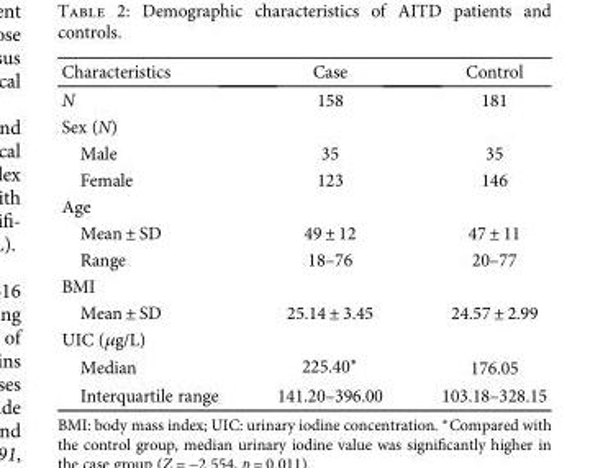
<table><thead><tr><td>Characteristics</td><td>Case</td><td>Control</td></tr></thead><tbody><tr><td>N</td><td>158</td><td>181</td></tr><tr><td colspan="3">Sex (N)</td></tr><tr><td>Male</td><td>35</td><td>35</td></tr><tr><td>Female</td><td>123</td><td>146</td></tr><tr><td colspan="3">Age</td></tr><tr><td>Mean ± SD</td><td>49 ± 12</td><td>47 ± 11</td></tr><tr><td>Range</td><td>18–76</td><td>20–77</td></tr><tr><td colspan="3">BMI</td></tr><tr><td>Mean ± SD</td><td>25.14 ± 3.45</td><td>24.57 ± 2.99</td></tr><tr><td colspan="3">UIC (μg/L)</td></tr><tr><td>Median</td><td>225.40∗</td><td>176.05</td></tr><tr><td>Interquartile range</td><td>141.20–396.00</td><td>103.18–328.15</td></tr></tbody></table>